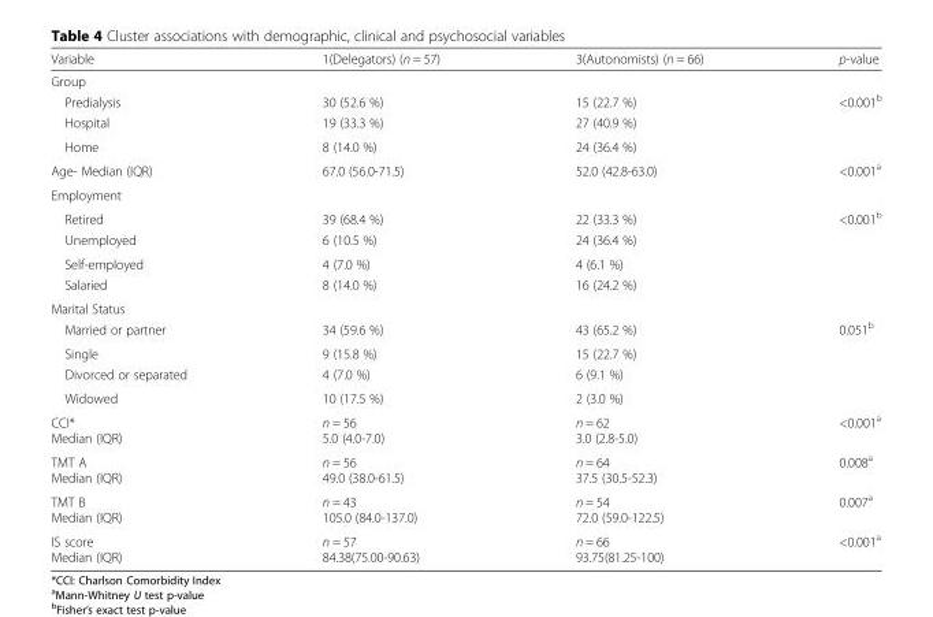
<table><thead><tr><td>Variable</td><td>1(Delegators) (n = 57)</td><td>3(Autonomists) (n = 66)</td><td>p-value</td></tr></thead><tbody><tr><td colspan="4">Group</td></tr><tr><td>Predialysis</td><td>30 (52.6 %)</td><td>15 (22.7 %)</td><td rowspan="3">&lt;0.001<sup>b</sup></td></tr><tr><td>Hospital</td><td>19 (33.3 %)</td><td>27 (40.9 %)</td></tr><tr><td>Home</td><td>8 (14.0 %)</td><td>24 (36.4 %)</td></tr><tr><td>Age- Median (IQR)</td><td>67.0 (56.0-71.5)</td><td>52.0 (42.8-63.0)</td><td>&lt;0.001<sup>a</sup></td></tr><tr><td colspan="4">Employment</td></tr><tr><td>Retired</td><td>39 (68.4 %)</td><td>22 (33.3 %)</td><td rowspan="4">&lt;0.001<sup>b</sup></td></tr><tr><td>Unemployed</td><td>6 (10.5 %)</td><td>24 (36.4 %)</td></tr><tr><td>Self-employed</td><td>4 (7.0 %)</td><td>4 (6.1 %)</td></tr><tr><td>Salaried</td><td>8 (14.0 %)</td><td>16 (24.2 %)</td></tr><tr><td colspan="4">Marital Status</td></tr><tr><td>Married or partner</td><td>34 (59.6 %)</td><td>43 (65.2 %)</td><td rowspan="4">0.051<sup>b</sup></td></tr><tr><td>Single</td><td>9 (15.8 %)</td><td>15 (22.7 %)</td></tr><tr><td>Divorced or separated</td><td>4 (7.0 %)</td><td>6 (9.1 %)</td></tr><tr><td>Widowed</td><td>10 (17.5 %)</td><td>2 (3.0 %)</td></tr><tr><td>CCI* Median (IQR)</td><td>n = 56 5.0 (4.0-7.0)</td><td>n = 62 3.0 (2.8-5.0)</td><td>&lt;0.001<sup>a</sup></td></tr><tr><td>TMT A Median (IQR)</td><td>n = 56 49.0 (38.0-61.5)</td><td>n = 64 37.5 (30.5-52.3)</td><td>0.008<sup>a</sup></td></tr><tr><td>TMT B Median (IQR)</td><td>n = 43 105.0 (84.0-137.0)</td><td>n = 54 72.0 (59.0-122.5)</td><td>0.007<sup>a</sup></td></tr><tr><td>IS score Median (IQR)</td><td>n = 57 84.38(75.00-90.63)</td><td>n = 66 93.75(81.25-100)</td><td>&lt;0.001<sup>a</sup></td></tr></tbody></table>